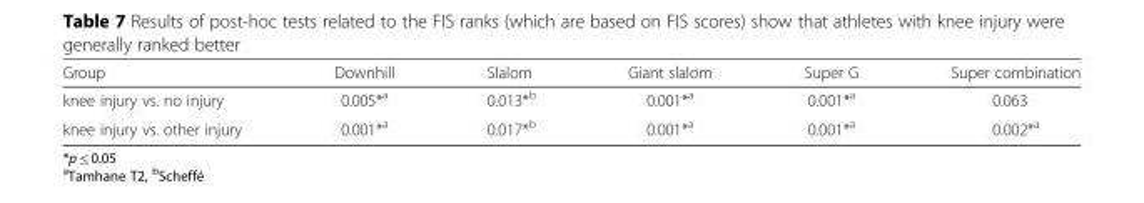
<table><thead><tr><td>Group</td><td>Downhill</td><td>Slalom</td><td>Giant slalom</td><td>Super G</td><td>Super combination</td></tr></thead><tbody><tr><td>knee injury vs. no injury</td><td>0.005*<sup>a</sup></td><td>0.013*<sup>b</sup></td><td>0.001*<sup>a</sup></td><td>0.001*<sup>a</sup></td><td>0.063</td></tr><tr><td>knee injury vs. other injury</td><td>0.001*<sup>a</sup></td><td>0.017*<sup>b</sup></td><td>0.001*<sup>a</sup></td><td>0.001*<sup>a</sup></td><td>0.002*<sup>a</sup></td></tr></tbody></table>